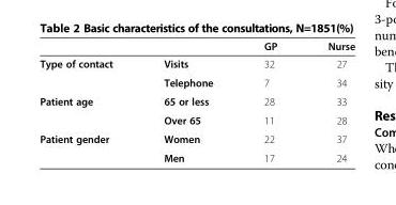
<table><thead><tr><td></td><td></td><td>GP</td><td>Nurse</td></tr></thead><tbody><tr><td rowspan="2">Type of contact</td><td>Visits</td><td>32</td><td>27</td></tr><tr><td>Telephone</td><td>7</td><td>34</td></tr><tr><td rowspan="2">Patient age</td><td>65 or less</td><td>28</td><td>33</td></tr><tr><td>Over 65</td><td>11</td><td>28</td></tr><tr><td rowspan="2">Patient gender</td><td>Women</td><td>22</td><td>37</td></tr><tr><td>Men</td><td>17</td><td>24</td></tr></tbody></table>